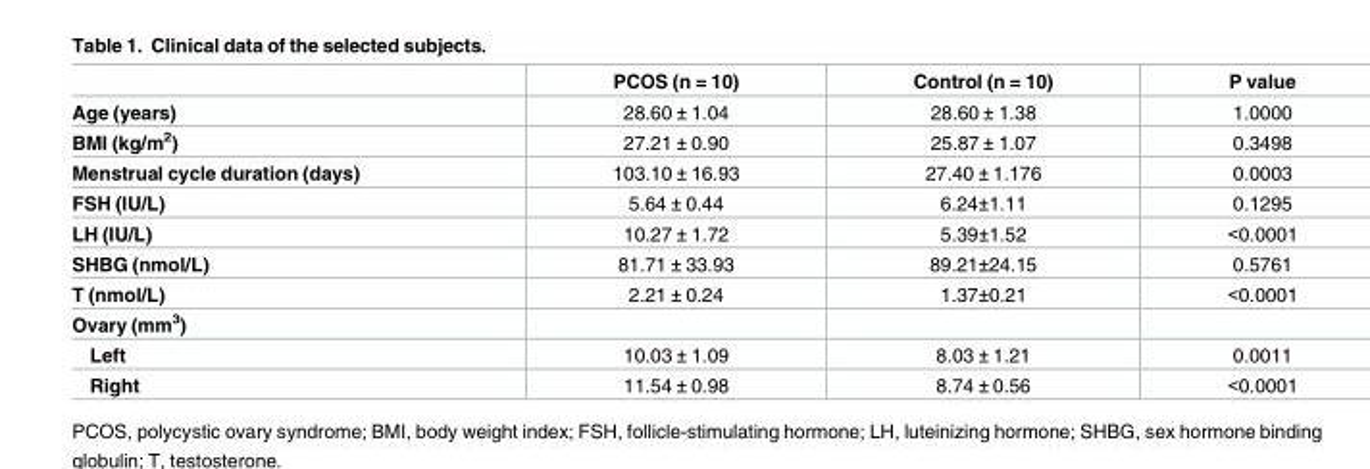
<table><thead><tr><td></td><td>PCOS (n = 10)</td><td>Control (n = 10)</td><td>P value</td></tr></thead><tbody><tr><td>Age (years)</td><td>28.60 ± 1.04</td><td>28.60 ± 1.38</td><td>1.0000</td></tr><tr><td>BMI (kg/m<sup>2</sup>)</td><td>27.21 ± 0.90</td><td>25.87 ± 1.07</td><td>0.3498</td></tr><tr><td>Menstrual cycle duration (days)</td><td>103.10 ± 16.93</td><td>27.40 ± 1.176</td><td>0.0003</td></tr><tr><td>FSH (IU/L)</td><td>5.64 ± 0.44</td><td>6.24±1.11</td><td>0.1295</td></tr><tr><td>LH (IU/L)</td><td>10.27 ± 1.72</td><td>5.39±1.52</td><td>&lt;0.0001</td></tr><tr><td>SHBG (nmol/L)</td><td>81.71 ± 33.93</td><td>89.21±24.15</td><td>0.5761</td></tr><tr><td>T (nmol/L)</td><td>2.21 ± 0.24</td><td>1.37±0.21</td><td>&lt;0.0001</td></tr><tr><td colspan="4">Ovary (mm<sup>3</sup>)</td></tr><tr><td>Left</td><td>10.03 ± 1.09</td><td>8.03 ± 1.21</td><td>0.0011</td></tr><tr><td>Right</td><td>11.54 ± 0.98</td><td>8.74 ± 0.56</td><td>&lt;0.0001</td></tr></tbody></table>